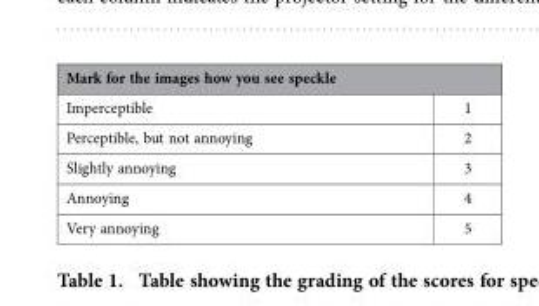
<table><thead><tr><td colspan="2">Mark for the images how you see speckle</td></tr><tr><td>Imperceptible</td><td>1</td></tr></thead><tbody><tr><td>Perceptible, but not annoying</td><td>2</td></tr><tr><td>Slightly annoying</td><td>3</td></tr><tr><td>Annoying</td><td>4</td></tr><tr><td>Very annoying</td><td>5</td></tr></tbody></table>